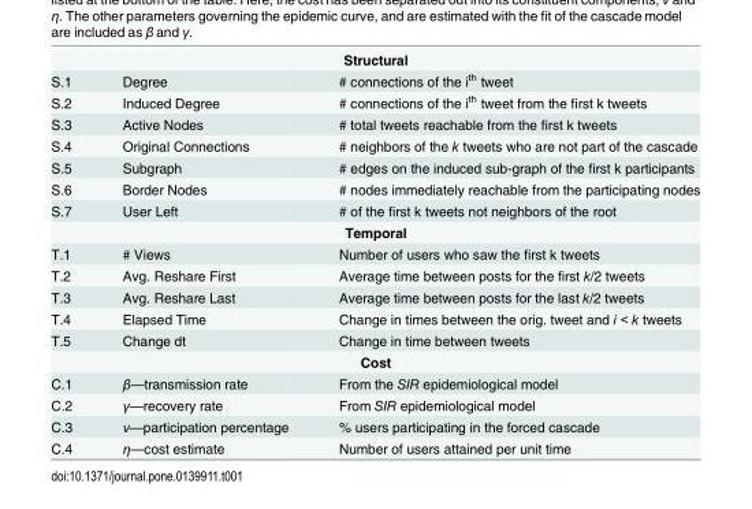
<table><tbody><tr><td colspan="3">Structural</td></tr><tr><td>S.1</td><td>Degree</td><td># connections of the i<sup>th</sup> tweet</td></tr><tr><td>S.2</td><td>Induced Degree</td><td># connections of the i<sup>th</sup> tweet from the first k tweets</td></tr><tr><td>S.3</td><td>Active Nodes</td><td># total tweets reachable from the first k tweets</td></tr><tr><td>S.4</td><td>Original Connections</td><td># neighbors of the k tweets who are not part of the cascade</td></tr><tr><td>S.5</td><td>Subgraph</td><td># edges on the induced sub-graph of the first k participants</td></tr><tr><td>S.6</td><td>Border Nodes</td><td># nodes immediately reachable from the participating nodes</td></tr><tr><td>S.7</td><td>User Left</td><td># of the first k tweets not neighbors of the root</td></tr><tr><td colspan="3">Temporal</td></tr><tr><td>T.1</td><td># Views</td><td>Number of users who saw the first k tweets</td></tr><tr><td>T.2</td><td>Avg. Reshare First</td><td>Average time between posts for the first k/2 tweets</td></tr><tr><td>T.3</td><td>Avg. Reshare Last</td><td>Average time between posts for the last k/2 tweets</td></tr><tr><td>T.4</td><td>Elapsed Time</td><td>Change in times between the orig. tweet and i &lt; k tweets</td></tr><tr><td>T.5</td><td>Change dt</td><td>Change in time between tweets</td></tr><tr><td colspan="3">Cost</td></tr><tr><td>C.1</td><td>β—transmission rate</td><td>From the SIR epidemiological model</td></tr><tr><td>C.2</td><td>γ—recovery rate</td><td>From SIR epidemiological model</td></tr><tr><td>C.3</td><td>ν—participation percentage</td><td>% users participating in the forced cascade</td></tr><tr><td>C.4</td><td>η—cost estimate</td><td>Number of users attained per unit time</td></tr></tbody></table>